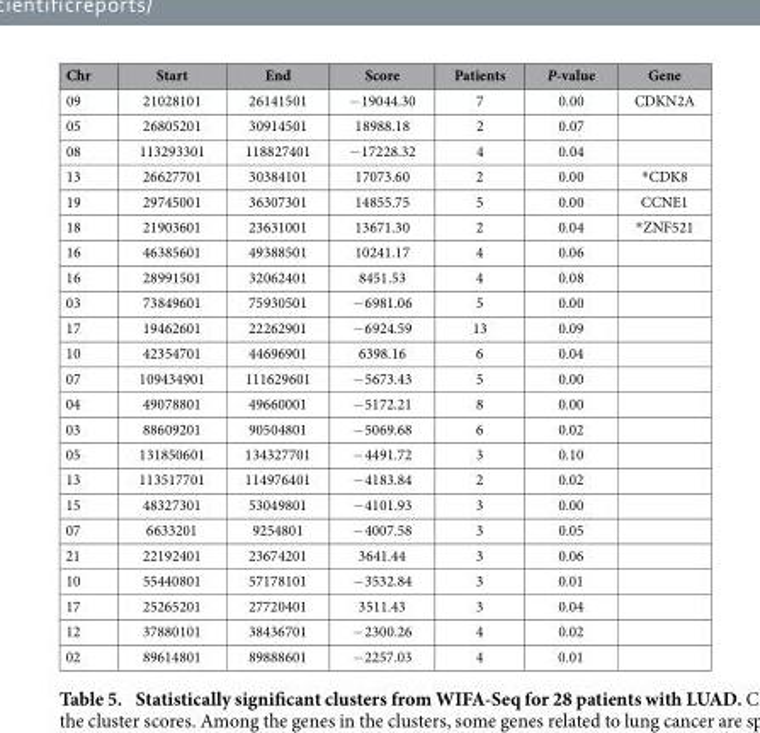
<table><thead><tr><td>Chr</td><td>Start</td><td>End</td><td>Score</td><td>Patients</td><td>P-value</td><td>Gene</td></tr></thead><tbody><tr><td>09</td><td>21028101</td><td>26141501</td><td>− 19044.30</td><td>7</td><td>0.00</td><td>CDKN2A</td></tr><tr><td>05</td><td>26805201</td><td>30914501</td><td>18988.18</td><td>2</td><td>0.07</td><td></td></tr><tr><td>08</td><td>113293301</td><td>118827401</td><td>− 17228.32</td><td>4</td><td>0.04</td><td></td></tr><tr><td>13</td><td>26627701</td><td>30384101</td><td>17073.60</td><td>2</td><td>0.00</td><td>*CDK8</td></tr><tr><td>19</td><td>29745001</td><td>36307301</td><td>14855.75</td><td>5</td><td>0.00</td><td>CCNE1</td></tr><tr><td>18</td><td>21903601</td><td>23631001</td><td>13671.30</td><td>2</td><td>0.04</td><td>*ZNF521</td></tr><tr><td>16</td><td>46385601</td><td>49388501</td><td>10241.17</td><td>4</td><td>0.06</td><td></td></tr><tr><td>16</td><td>28991501</td><td>32062401</td><td>8451.53</td><td>4</td><td>0.08</td><td></td></tr><tr><td>03</td><td>73849601</td><td>75930501</td><td>− 6981.06</td><td>5</td><td>0.00</td><td></td></tr><tr><td>17</td><td>19462601</td><td>22262901</td><td>− 6924.59</td><td>13</td><td>0.09</td><td></td></tr><tr><td>10</td><td>42354701</td><td>44696901</td><td>6398.16</td><td>6</td><td>0.04</td><td></td></tr><tr><td>07</td><td>109434901</td><td>111629601</td><td>− 5673.43</td><td>5</td><td>0.00</td><td></td></tr><tr><td>04</td><td>49078801</td><td>49660001</td><td>− 5172.21</td><td>8</td><td>0.00</td><td></td></tr><tr><td>03</td><td>88609201</td><td>90504801</td><td>− 5069.68</td><td>6</td><td>0.02</td><td></td></tr><tr><td>05</td><td>131850601</td><td>134327701</td><td>− 4491.72</td><td>3</td><td>0.10</td><td></td></tr><tr><td>13</td><td>113517701</td><td>114976401</td><td>− 4183.84</td><td>2</td><td>0.02</td><td></td></tr><tr><td>15</td><td>48327301</td><td>53049801</td><td>− 4101.93</td><td>3</td><td>0.00</td><td></td></tr><tr><td>07</td><td>6633201</td><td>9254801</td><td>− 4007.58</td><td>3</td><td>0.05</td><td></td></tr><tr><td>21</td><td>22192401</td><td>23674201</td><td>3641.44</td><td>3</td><td>0.06</td><td></td></tr><tr><td>10</td><td>55440801</td><td>57178101</td><td>− 3532.84</td><td>3</td><td>0.01</td><td></td></tr><tr><td>17</td><td>25265201</td><td>27720401</td><td>3511.43</td><td>3</td><td>0.04</td><td></td></tr><tr><td>12</td><td>37880101</td><td>38436701</td><td>− 2300.26</td><td>4</td><td>0.02</td><td></td></tr><tr><td>02</td><td>89614801</td><td>89888601</td><td>− 2257.03</td><td>4</td><td>0.01</td><td></td></tr></tbody></table>